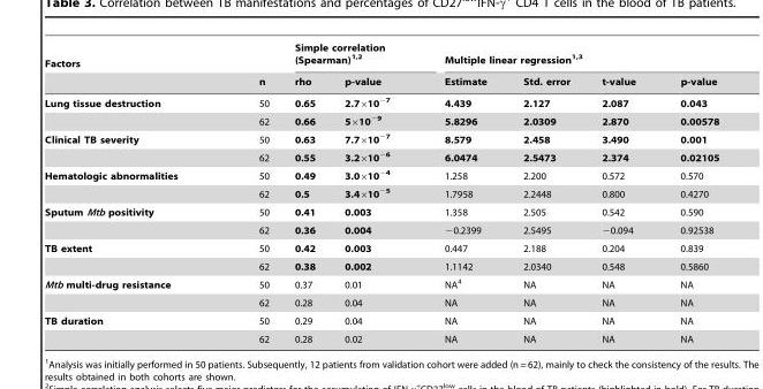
<table><thead><tr><td rowspan="2">Factors</td><td rowspan="2">n</td><td colspan="2">Simple correlation (Spearman)<sup>1,2</sup></td><td colspan="4">Multiple linear regression<sup>1,3</sup></td></tr><tr><td>rho</td><td>p-value</td><td>Estimate</td><td>Std. error</td><td>t-value</td><td>p-value</td></tr></thead><tbody><tr><td rowspan="2">Lung tissue destruction</td><td>50</td><td>0.65</td><td>2.7×10<sup>−7</sup></td><td>4.439</td><td>2.127</td><td>2.087</td><td>0.043</td></tr><tr><td>62</td><td>0.66</td><td>5×10<sup>−9</sup></td><td>5.8296</td><td>2.0309</td><td>2.870</td><td>0.00578</td></tr><tr><td rowspan="2">Clinical TB severity</td><td>50</td><td>0.63</td><td>7.7×10<sup>−7</sup></td><td>8.579</td><td>2.458</td><td>3.490</td><td>0.001</td></tr><tr><td>62</td><td>0.55</td><td>3.2×10<sup>−6</sup></td><td>6.0474</td><td>2.5473</td><td>2.374</td><td>0.02105</td></tr><tr><td rowspan="2">Hematologic abnormalities</td><td>50</td><td>0.49</td><td>3.0×10<sup>−4</sup></td><td>1.258</td><td>2.200</td><td>0.572</td><td>0.570</td></tr><tr><td>62</td><td>0.5</td><td>3.4×10<sup>−5</sup></td><td>1.7958</td><td>2.2448</td><td>0.800</td><td>0.4270</td></tr><tr><td rowspan="2">Sputum Mtb positivity</td><td>50</td><td>0.41</td><td>0.003</td><td>1.358</td><td>2.505</td><td>0.542</td><td>0.590</td></tr><tr><td>62</td><td>0.36</td><td>0.004</td><td>−0.2399</td><td>2.5495</td><td>−0.094</td><td>0.92538</td></tr><tr><td rowspan="2">TB extent</td><td>50</td><td>0.42</td><td>0.003</td><td>0.447</td><td>2.188</td><td>0.204</td><td>0.839</td></tr><tr><td>62</td><td>0.38</td><td>0.002</td><td>1.1142</td><td>2.0340</td><td>0.548</td><td>0.5860</td></tr><tr><td rowspan="2">Mtb multi-drug resistance</td><td>50</td><td>0.37</td><td>0.01</td><td>NA<sup>4</sup></td><td>NA</td><td>NA</td><td>NA</td></tr><tr><td>62</td><td>0.28</td><td>0.04</td><td>NA</td><td>NA</td><td>NA</td><td>NA</td></tr><tr><td rowspan="2">TB duration</td><td>50</td><td>0.29</td><td>0.04</td><td>NA</td><td>NA</td><td>NA</td><td>NA</td></tr><tr><td>62</td><td>0.28</td><td>0.02</td><td>NA</td><td>NA</td><td>NA</td><td>NA</td></tr></tbody></table>